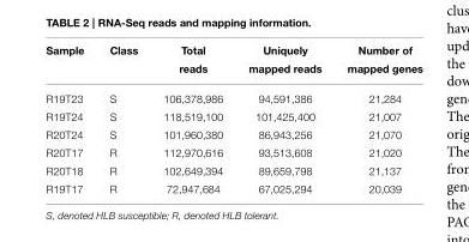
<table><thead><tr><td>Sample</td><td>Class</td><td>Total reads</td><td>Uniquely mapped reads</td><td>Number of mapped genes</td></tr></thead><tbody><tr><td>R19T23</td><td>S</td><td>106,378,986</td><td>94,591,386</td><td>21,284</td></tr><tr><td>R19T24</td><td>S</td><td>118,519,100</td><td>101,425,400</td><td>21,007</td></tr><tr><td>R20T24</td><td>S</td><td>101,960,380</td><td>86,943,256</td><td>21,070</td></tr><tr><td>R20T17</td><td>R</td><td>112,970,616</td><td>93,513,608</td><td>21,020</td></tr><tr><td>R20T18</td><td>R</td><td>102,649,394</td><td>89,659,798</td><td>21,137</td></tr><tr><td>R19T17</td><td>R</td><td>72,947,684</td><td>67,025,294</td><td>20,039</td></tr></tbody></table>